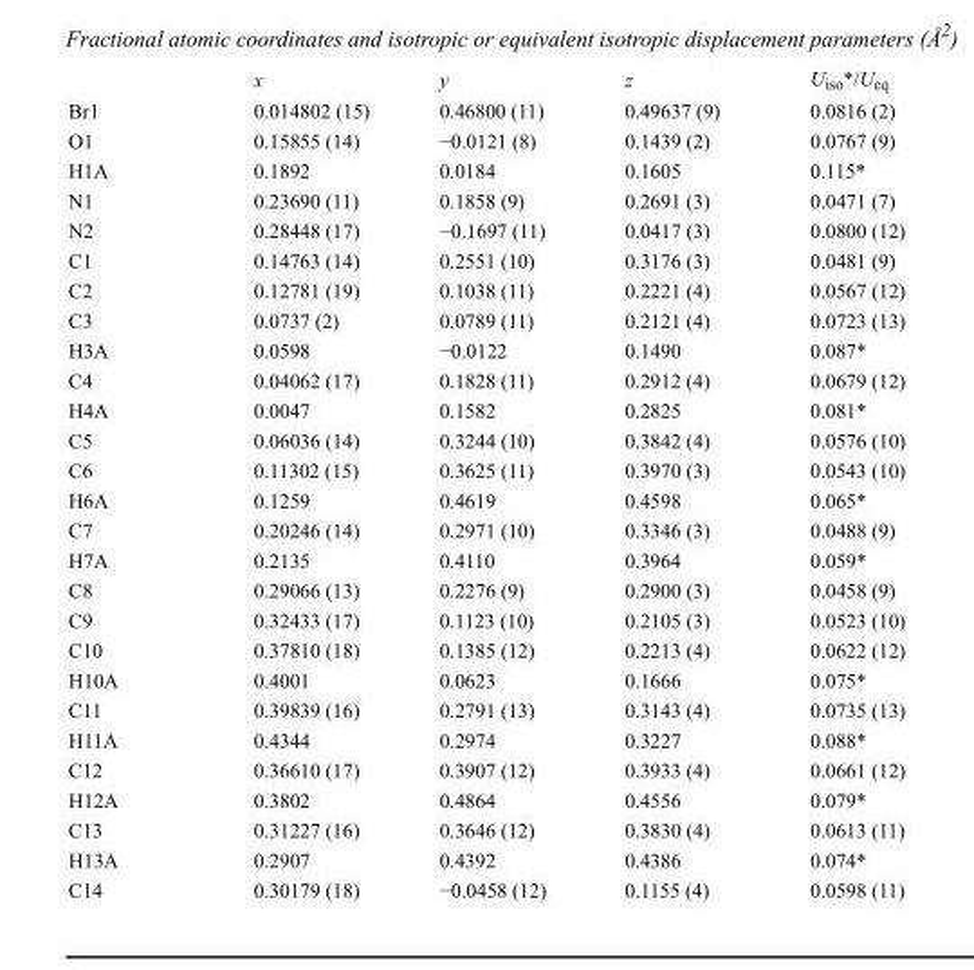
<table><thead><tr><td></td><td>x</td><td>y</td><td>z</td><td>U<sub>iso</sub>*/U<sub>eq</sub></td></tr></thead><tbody><tr><td>Br1</td><td>0.014802 (15)</td><td>0.46800 (11)</td><td>0.49637 (9)</td><td>0.0816 (2)</td></tr><tr><td>O1</td><td>0.15855 (14)</td><td>−0.0121 (8)</td><td>0.1439 (2)</td><td>0.0767 (9)</td></tr><tr><td>H1A</td><td>0.1892</td><td>0.0184</td><td>0.1605</td><td>0.115*</td></tr><tr><td>N1</td><td>0.23690 (11)</td><td>0.1858 (9)</td><td>0.2691 (3)</td><td>0.0471 (7)</td></tr><tr><td>N2</td><td>0.28448 (17)</td><td>−0.1697 (11)</td><td>0.0417 (3)</td><td>0.0800 (12)</td></tr><tr><td>C1</td><td>0.14763 (14)</td><td>0.2551 (10)</td><td>0.3176 (3)</td><td>0.0481 (9)</td></tr><tr><td>C2</td><td>0.12781 (19)</td><td>0.1038 (11)</td><td>0.2221 (4)</td><td>0.0567 (12)</td></tr><tr><td>C3</td><td>0.0737 (2)</td><td>0.0789 (11)</td><td>0.2121 (4)</td><td>0.0723 (13)</td></tr><tr><td>H3A</td><td>0.0598</td><td>−0.0122</td><td>0.1490</td><td>0.087*</td></tr><tr><td>C4</td><td>0.04062 (17)</td><td>0.1828 (11)</td><td>0.2912 (4)</td><td>0.0679 (12)</td></tr><tr><td>H4A</td><td>0.0047</td><td>0.1582</td><td>0.2825</td><td>0.081*</td></tr><tr><td>C5</td><td>0.06036 (14)</td><td>0.3244 (10)</td><td>0.3842 (4)</td><td>0.0576 (10)</td></tr><tr><td>C6</td><td>0.11302 (15)</td><td>0.3625 (11)</td><td>0.3970 (3)</td><td>0.0543 (10)</td></tr><tr><td>H6A</td><td>0.1259</td><td>0.4619</td><td>0.4598</td><td>0.065*</td></tr><tr><td>C7</td><td>0.20246 (14)</td><td>0.2971 (10)</td><td>0.3346 (3)</td><td>0.0488 (9)</td></tr><tr><td>H7A</td><td>0.2135</td><td>0.4110</td><td>0.3964</td><td>0.059*</td></tr><tr><td>C8</td><td>0.29066 (13)</td><td>0.2276 (9)</td><td>0.2900 (3)</td><td>0.0458 (9)</td></tr><tr><td>C9</td><td>0.32433 (17)</td><td>0.1123 (10)</td><td>0.2105 (3)</td><td>0.0523 (10)</td></tr><tr><td>C10</td><td>0.37810 (18)</td><td>0.1385 (12)</td><td>0.2213 (4)</td><td>0.0622 (12)</td></tr><tr><td>H10A</td><td>0.4001</td><td>0.0623</td><td>0.1666</td><td>0.075*</td></tr><tr><td>C11</td><td>0.39839 (16)</td><td>0.2791 (13)</td><td>0.3143 (4)</td><td>0.0735 (13)</td></tr><tr><td>H11A</td><td>0.4344</td><td>0.2974</td><td>0.3227</td><td>0.088*</td></tr><tr><td>C12</td><td>0.36610 (17)</td><td>0.3907 (12)</td><td>0.3933 (4)</td><td>0.0661 (12)</td></tr><tr><td>H12A</td><td>0.3802</td><td>0.4864</td><td>0.4556</td><td>0.079*</td></tr><tr><td>C13</td><td>0.31227 (16)</td><td>0.3646 (12)</td><td>0.3830 (4)</td><td>0.0613 (11)</td></tr><tr><td>H13A</td><td>0.2907</td><td>0.4392</td><td>0.4386</td><td>0.074*</td></tr><tr><td>C14</td><td>0.30179 (18)</td><td>−0.0458 (12)</td><td>0.1155 (4)</td><td>0.0598 (11)</td></tr></tbody></table>